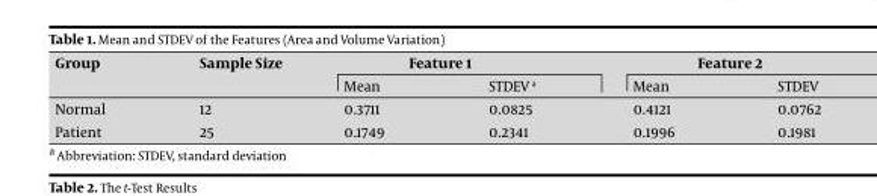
<table><thead><tr><td rowspan="2">Group</td><td rowspan="2">Sample Size</td><td colspan="2">Feature 1</td><td colspan="2">Feature 2</td></tr><tr><td>Mean</td><td>STDEV a</td><td>Mean</td><td>STDEV</td></tr></thead><tbody><tr><td>Normal</td><td>12</td><td>0.3711</td><td>0.0825</td><td>0.4121</td><td>0.0762</td></tr><tr><td>Patient</td><td>25</td><td>0.1749</td><td>0.2341</td><td>0.1996</td><td>0.1981</td></tr></tbody></table>